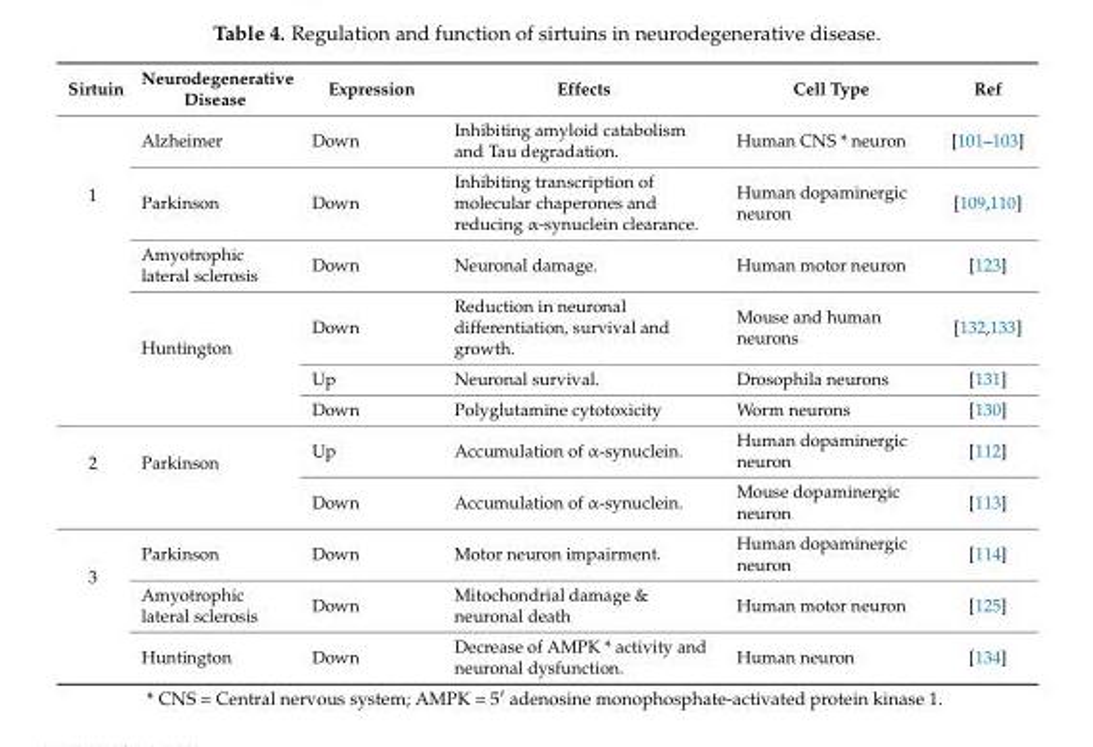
<table><thead><tr><td>Sirtuin</td><td>Neurodegenerative Disease</td><td>Expression</td><td>Effects</td><td>Cell Type</td><td>Ref</td></tr></thead><tbody><tr><td rowspan="6">1</td><td>Alzheimer</td><td>Down</td><td>Inhibiting amyloid catabolism and Tau degradation.</td><td>Human CNS * neuron</td><td>[101–103]</td></tr><tr><td>Parkinson</td><td>Down</td><td>Inhibiting transcription of molecular chaperones and reducing α-synuclein clearance.</td><td>Human dopaminergic neuron</td><td>[109,110]</td></tr><tr><td>Amyotrophic lateral sclerosis</td><td>Down</td><td>Neuronal damage.</td><td>Human motor neuron</td><td>[123]</td></tr><tr><td rowspan="3">Huntington</td><td>Down</td><td>Reduction in neuronal differentiation, survival and growth.</td><td>Mouse and human neurons</td><td>[132,133]</td></tr><tr><td>Up</td><td>Neuronal survival.</td><td>Drosophila neurons</td><td>[131]</td></tr><tr><td>Down</td><td>Polyglutamine cytotoxicity</td><td>Worm neurons</td><td>[130]</td></tr><tr><td rowspan="2">2</td><td rowspan="2">Parkinson</td><td>Up</td><td>Accumulation of α-synuclein.</td><td>Human dopaminergic neuron</td><td>[112]</td></tr><tr><td>Down</td><td>Accumulation of α-synuclein.</td><td>Mouse dopaminergic neuron</td><td>[113]</td></tr><tr><td rowspan="3">3</td><td>Parkinson</td><td>Down</td><td>Motor neuron impairment.</td><td>Human dopaminergic neuron</td><td>[114]</td></tr><tr><td>Amyotrophic lateral sclerosis</td><td>Down</td><td>Mitochondrial damage &amp; neuronal death</td><td>Human motor neuron</td><td>[125]</td></tr><tr><td>Huntington</td><td>Down</td><td>Decrease of AMPK * activity and neuronal dysfunction.</td><td>Human neuron</td><td>[134]</td></tr></tbody></table>